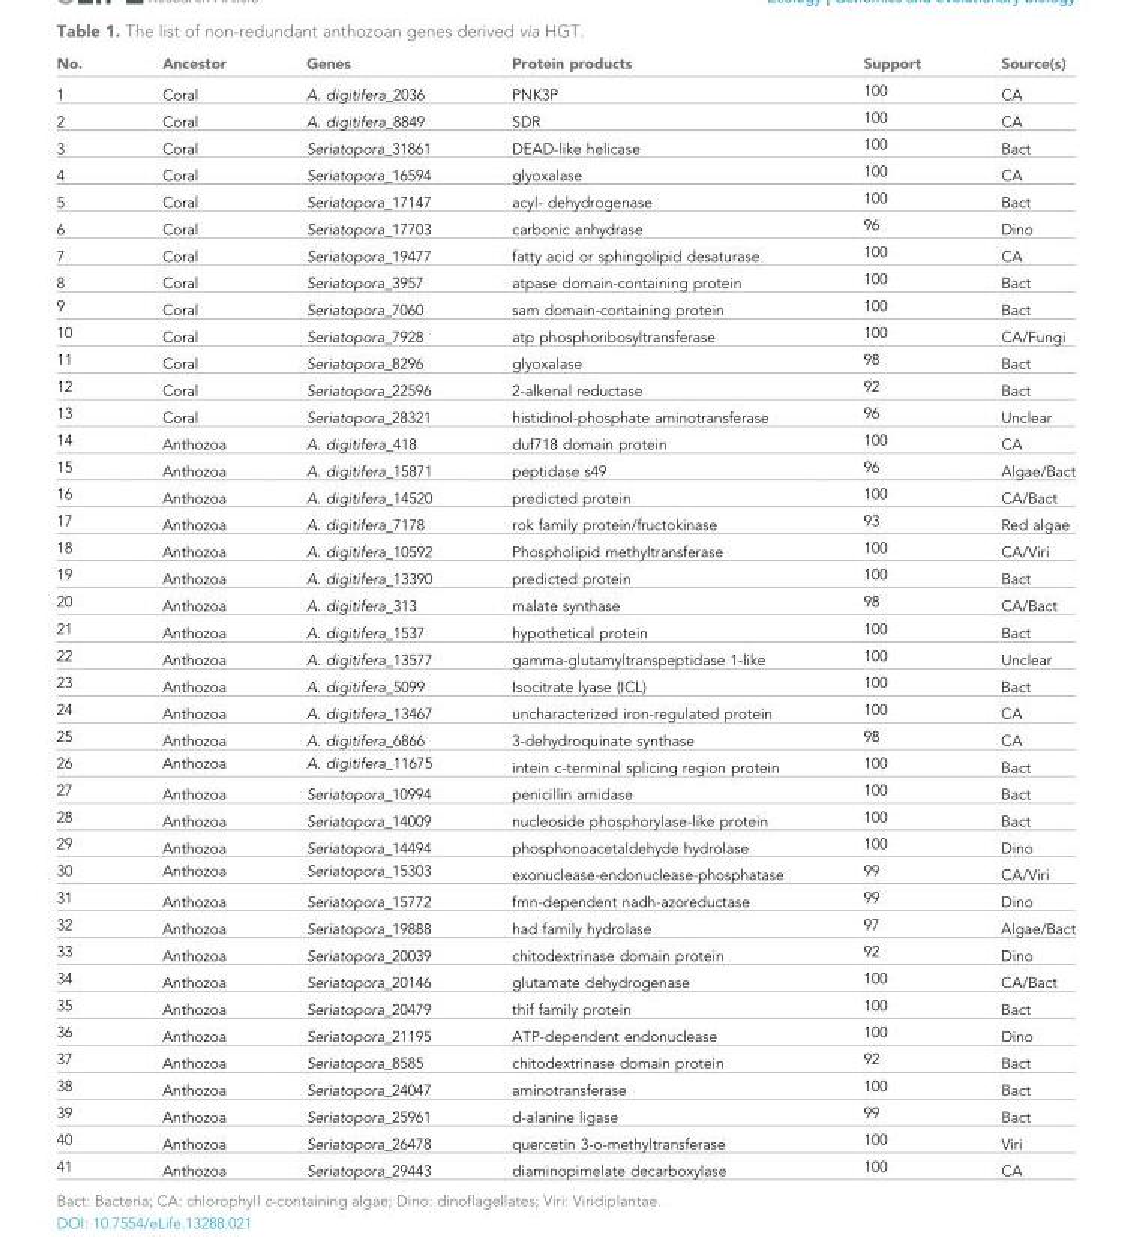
<table><thead><tr><td>No.</td><td>Ancestor</td><td>Genes</td><td>Protein products</td><td>Support</td><td>Source(s)</td></tr></thead><tbody><tr><td>1</td><td>Coral</td><td>A. digitifera_2036</td><td>PNK3P</td><td>100</td><td>CA</td></tr><tr><td>2</td><td>Coral</td><td>A. digitifera_8849</td><td>SDR</td><td>100</td><td>CA</td></tr><tr><td>3</td><td>Coral</td><td>Seriatopora_31861</td><td>DEAD-like helicase</td><td>100</td><td>Bact</td></tr><tr><td>4</td><td>Coral</td><td>Seriatopora_16594</td><td>glyoxalase</td><td>100</td><td>CA</td></tr><tr><td>5</td><td>Coral</td><td>Seriatopora_17147</td><td>acyl- dehydrogenase</td><td>100</td><td>Bact</td></tr><tr><td>6</td><td>Coral</td><td>Seriatopora_17703</td><td>carbonic anhydrase</td><td>96</td><td>Dino</td></tr><tr><td>7</td><td>Coral</td><td>Seriatopora_19477</td><td>fatty acid or sphingolipid desaturase</td><td>100</td><td>CA</td></tr><tr><td>8</td><td>Coral</td><td>Seriatopora_3957</td><td>atpase domain-containing protein</td><td>100</td><td>Bact</td></tr><tr><td>9</td><td>Coral</td><td>Seriatopora_7060</td><td>sam domain-containing protein</td><td>100</td><td>Bact</td></tr><tr><td>10</td><td>Coral</td><td>Seriatopora_7928</td><td>atp phosphoribosyltransferase</td><td>100</td><td>CA/Fungi</td></tr><tr><td>11</td><td>Coral</td><td>Seriatopora_8296</td><td>glyoxalase</td><td>98</td><td>Bact</td></tr><tr><td>12</td><td>Coral</td><td>Seriatopora_22596</td><td>2-alkenal reductase</td><td>92</td><td>Bact</td></tr><tr><td>13</td><td>Coral</td><td>Seriatopora_28321</td><td>histidinol-phosphate aminotransferase</td><td>96</td><td>Unclear</td></tr><tr><td>14</td><td>Anthozoa</td><td>A. digitifera_418</td><td>duf718 domain protein</td><td>100</td><td>CA</td></tr><tr><td>15</td><td>Anthozoa</td><td>A. digitifera_15871</td><td>peptidase s49</td><td>96</td><td>Algae/Bact</td></tr><tr><td>16</td><td>Anthozoa</td><td>A. digitifera_14520</td><td>predicted protein</td><td>100</td><td>CA/Bact</td></tr><tr><td>17</td><td>Anthozoa</td><td>A. digitifera_7178</td><td>rok family protein/fructokinase</td><td>93</td><td>Red algae</td></tr><tr><td>18</td><td>Anthozoa</td><td>A. digitifera_10592</td><td>Phospholipid methyltransferase</td><td>100</td><td>CA/Viri</td></tr><tr><td>19</td><td>Anthozoa</td><td>A. digitifera_13390</td><td>predicted protein</td><td>100</td><td>Bact</td></tr><tr><td>20</td><td>Anthozoa</td><td>A. digitifera_313</td><td>malate synthase</td><td>98</td><td>CA/Bact</td></tr><tr><td>21</td><td>Anthozoa</td><td>A. digitifera_1537</td><td>hypothetical protein</td><td>100</td><td>Bact</td></tr><tr><td>22</td><td>Anthozoa</td><td>A. digitifera_13577</td><td>gamma-glutamyltranspeptidase 1-like</td><td>100</td><td>Unclear</td></tr><tr><td>23</td><td>Anthozoa</td><td>A. digitifera_5099</td><td>Isocitrate lyase (ICL)</td><td>100</td><td>Bact</td></tr><tr><td>24</td><td>Anthozoa</td><td>A. digitifera_13467</td><td>uncharacterized iron-regulated protein</td><td>100</td><td>CA</td></tr><tr><td>25</td><td>Anthozoa</td><td>A. digitifera_6866</td><td>3-dehydroquinate synthase</td><td>98</td><td>CA</td></tr><tr><td>26</td><td>Anthozoa</td><td>A. digitifera_11675</td><td>intein c-terminal splicing region protein</td><td>100</td><td>Bact</td></tr><tr><td>27</td><td>Anthozoa</td><td>Seriatopora_10994</td><td>penicillin amidase</td><td>100</td><td>Bact</td></tr><tr><td>28</td><td>Anthozoa</td><td>Seriatopora_14009</td><td>nucleoside phosphorylase-like protein</td><td>100</td><td>Bact</td></tr><tr><td>29</td><td>Anthozoa</td><td>Seriatopora_14494</td><td>phosphonoacetaldehyde hydrolase</td><td>100</td><td>Dino</td></tr><tr><td>30</td><td>Anthozoa</td><td>Seriatopora_15303</td><td>exonuclease-endonuclease-phosphatase</td><td>99</td><td>CA/Viri</td></tr><tr><td>31</td><td>Anthozoa</td><td>Seriatopora_15772</td><td>fmn-dependent nadh-azoreductase</td><td>99</td><td>Dino</td></tr><tr><td>32</td><td>Anthozoa</td><td>Seriatopora_19888</td><td>had family hydrolase</td><td>97</td><td>Algae/Bact</td></tr><tr><td>33</td><td>Anthozoa</td><td>Seriatopora_20039</td><td>chitodextrinase domain protein</td><td>92</td><td>Dino</td></tr><tr><td>34</td><td>Anthozoa</td><td>Seriatopora_20146</td><td>glutamate dehydrogenase</td><td>100</td><td>CA/Bact</td></tr><tr><td>35</td><td>Anthozoa</td><td>Seriatopora_20479</td><td>thif family protein</td><td>100</td><td>Bact</td></tr><tr><td>36</td><td>Anthozoa</td><td>Seriatopora_21195</td><td>ATP-dependent endonuclease</td><td>100</td><td>Dino</td></tr><tr><td>37</td><td>Anthozoa</td><td>Seriatopora_8585</td><td>chitodextrinase domain protein</td><td>92</td><td>Bact</td></tr><tr><td>38</td><td>Anthozoa</td><td>Seriatopora_24047</td><td>aminotransferase</td><td>100</td><td>Bact</td></tr><tr><td>39</td><td>Anthozoa</td><td>Seriatopora_25961</td><td>d-alanine ligase</td><td>99</td><td>Bact</td></tr><tr><td>40</td><td>Anthozoa</td><td>Seriatopora_26478</td><td>quercetin 3-o-methyltransferase</td><td>100</td><td>Viri</td></tr><tr><td>41</td><td>Anthozoa</td><td>Seriatopora_29443</td><td>diaminopimelate decarboxylase</td><td>100</td><td>CA</td></tr></tbody></table>